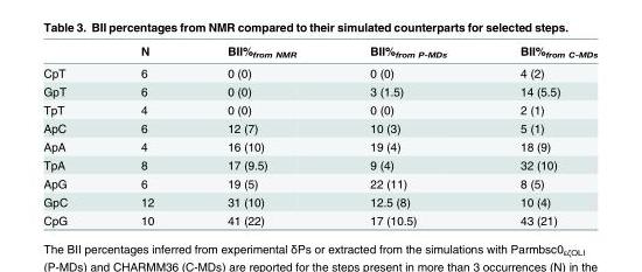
<table><thead><tr><td></td><td>N</td><td>BII%<sub>from NMR</sub></td><td>BII%<sub>from P-MDs</sub></td><td>BII%<sub>from C-MDs</sub></td></tr></thead><tbody><tr><td>CpT</td><td>6</td><td>0 (0)</td><td>0 (0)</td><td>4 (2)</td></tr><tr><td>GpT</td><td>6</td><td>0 (0)</td><td>3 (1.5)</td><td>14 (5.5)</td></tr><tr><td>TpT</td><td>4</td><td>0 (0)</td><td>0 (0)</td><td>2 (1)</td></tr><tr><td>ApC</td><td>6</td><td>12 (7)</td><td>10 (3)</td><td>5 (1)</td></tr><tr><td>ApA</td><td>4</td><td>16 (10)</td><td>19 (4)</td><td>18 (9)</td></tr><tr><td>TpA</td><td>8</td><td>17 (9.5)</td><td>9 (4)</td><td>32 (10)</td></tr><tr><td>ApG</td><td>6</td><td>19 (5)</td><td>22 (11)</td><td>8 (5)</td></tr><tr><td>GpC</td><td>12</td><td>31 (10)</td><td>12.5 (8)</td><td>10 (4)</td></tr><tr><td>CpG</td><td>10</td><td>41 (22)</td><td>17 (10.5)</td><td>43 (21)</td></tr></tbody></table>